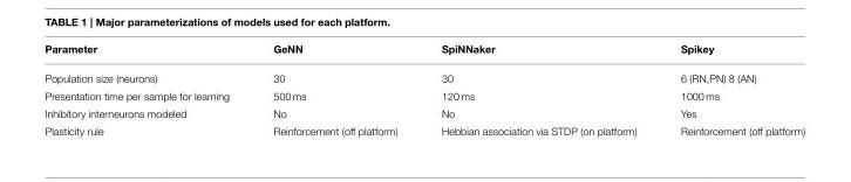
<table><thead><tr><td>Parameter</td><td>GeNN</td><td>SpiNNaker</td><td>Spikey</td></tr></thead><tbody><tr><td>Population size (neurons)</td><td>30</td><td>30</td><td>6 (RN,PN) 8 (AN)</td></tr><tr><td>Presentation time per sample for learning</td><td>500 ms</td><td>120 ms</td><td>1000 ms</td></tr><tr><td>Inhibitory interneurons modeled</td><td>No</td><td>No</td><td>Yes</td></tr><tr><td>Plasticity rule</td><td>Reinforcement (off platform)</td><td>Hebbian association via STDP (on platform)</td><td>Reinforcement (off platform)</td></tr></tbody></table>